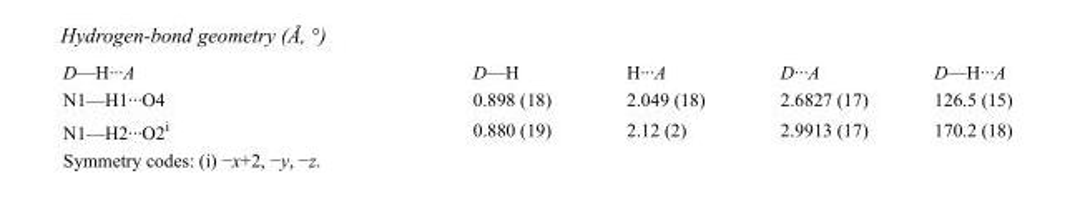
<table><tbody><tr><td>D—H···A</td><td>D—H</td><td>H···A</td><td>D···A</td><td>D—H···A</td></tr><tr><td>N1—H1···O4</td><td>0.898 (18)</td><td>2.049 (18)</td><td>2.6827 (17)</td><td>126.5 (15)</td></tr><tr><td>N1—H2···O2<sup>i</sup></td><td>0.880 (19)</td><td>2.12 (2)</td><td>2.9913 (17)</td><td>170.2 (18)</td></tr></tbody></table>